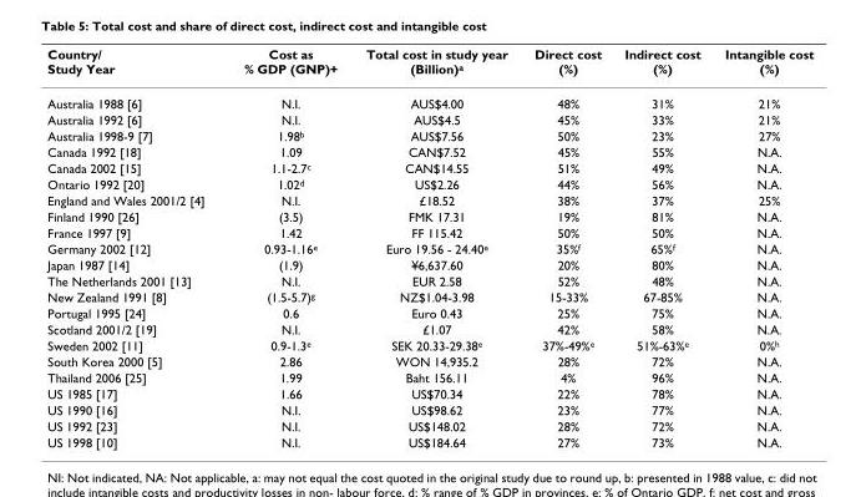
<table><thead><tr><td>Country/ Study Year</td><td>Cost as % GDP (GNP)+</td><td>Total cost in study year (Billion)<sup>a</sup></td><td>Direct cost (%)</td><td>Indirect cost (%)</td><td>Intangible cost (%)</td></tr></thead><tbody><tr><td>Australia 1988 [6]</td><td>N.I.</td><td>AUS$4.00</td><td>48%</td><td>31%</td><td>21%</td></tr><tr><td>Australia 1992 [6]</td><td>N.I.</td><td>AUS$4.5</td><td>45%</td><td>33%</td><td>21%</td></tr><tr><td>Australia 1998-9 [7]</td><td>1.98<sup>b</sup></td><td>AUS$7.56</td><td>50%</td><td>23%</td><td>27%</td></tr><tr><td>Canada 1992 [18]</td><td>1.09</td><td>CAN$7.52</td><td>45%</td><td>55%</td><td>N.A.</td></tr><tr><td>Canada 2002 [15]</td><td>1.1-2.7<sup>c</sup></td><td>CAN$14.55</td><td>51%</td><td>49%</td><td>N.A.</td></tr><tr><td>Ontario 1992 [20]</td><td>1.02<sup>d</sup></td><td>US$2.26</td><td>44%</td><td>56%</td><td>N.A.</td></tr><tr><td>England and Wales 2001/2 [4]</td><td>N.I.</td><td>£18.52</td><td>38%</td><td>37%</td><td>25%</td></tr><tr><td>Finland 1990 [26]</td><td>(3.5)</td><td>FMK 17.31</td><td>19%</td><td>81%</td><td>N.A.</td></tr><tr><td>France 1997 [9]</td><td>1.42</td><td>FF 115.42</td><td>50%</td><td>50%</td><td>N.A.</td></tr><tr><td>Germany 2002 [12]</td><td>0.93-1.16<sup>e</sup></td><td>Euro 19.56 - 24.40<sup>e</sup></td><td>35%<sup>f</sup></td><td>65%<sup>f</sup></td><td>N.A.</td></tr><tr><td>Japan 1987 [14]</td><td>(1.9)</td><td>¥6,637.60</td><td>20%</td><td>80%</td><td>N.A.</td></tr><tr><td>The Netherlands 2001 [13]</td><td>N.I.</td><td>EUR 2.58</td><td>52%</td><td>48%</td><td>N.A.</td></tr><tr><td>New Zealand 1991 [8]</td><td>(1.5-5.7)<sup>g</sup></td><td>NZ$1.04-3.98</td><td>15-33%</td><td>67-85%</td><td>N.A.</td></tr><tr><td>Portugal 1995 [24]</td><td>0.6</td><td>Euro 0.43</td><td>25%</td><td>75%</td><td>N.A.</td></tr><tr><td>Scotland 2001/2 [19]</td><td>N.I.</td><td>£1.07</td><td>42%</td><td>58%</td><td>N.A.</td></tr><tr><td>Sweden 2002 [11]</td><td>0.9-1.3<sup>e</sup></td><td>SEK 20.33-29.38<sup>e</sup></td><td>37%-49%<sup>e</sup></td><td>51%-63%<sup>e</sup></td><td>0%<sup>h</sup></td></tr><tr><td>South Korea 2000 [5]</td><td>2.86</td><td>WON 14,935.2</td><td>28%</td><td>72%</td><td>N.A.</td></tr><tr><td>Thailand 2006 [25]</td><td>1.99</td><td>Baht 156.11</td><td>4%</td><td>96%</td><td>N.A.</td></tr><tr><td>US 1985 [17]</td><td>1.66</td><td>US$70.34</td><td>22%</td><td>78%</td><td>N.A.</td></tr><tr><td>US 1990 [16]</td><td>N.I.</td><td>US$98.62</td><td>23%</td><td>77%</td><td>N.A.</td></tr><tr><td>US 1992 [23]</td><td>N.I.</td><td>US$148.02</td><td>28%</td><td>72%</td><td>N.A.</td></tr><tr><td>US 1998 [10]</td><td>N.I.</td><td>US$184.64</td><td>27%</td><td>73%</td><td>N.A.</td></tr></tbody></table>